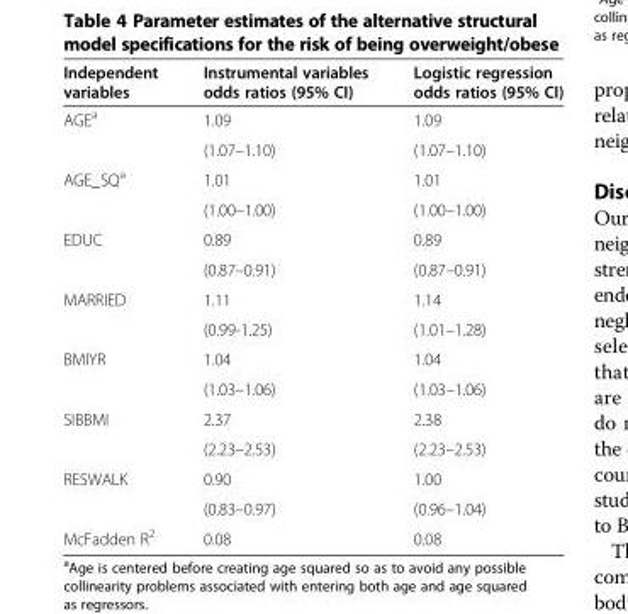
<table><thead><tr><td>Independent variables</td><td>Instrumental variables odds ratios (95% CI)</td><td>Logistic regression odds ratios (95% CI)</td></tr></thead><tbody><tr><td rowspan="2">AGE<sup>a</sup></td><td>1.09</td><td>1.09</td></tr><tr><td>(1.07–1.10)</td><td>(1.07–1.10)</td></tr><tr><td rowspan="2">AGE_SQ<sup>a</sup></td><td>1.01</td><td>1.01</td></tr><tr><td>(1.00–1.00)</td><td>(1.00–1.00)</td></tr><tr><td rowspan="2">EDUC</td><td>0.89</td><td>0.89</td></tr><tr><td>(0.87–0.91)</td><td>(0.87–0.91)</td></tr><tr><td rowspan="2">MARRIED</td><td>1.11</td><td>1.14</td></tr><tr><td>(0.99-1.25)</td><td>(1.01–1.28)</td></tr><tr><td rowspan="2">BMIYR</td><td>1.04</td><td>1.04</td></tr><tr><td>(1.03–1.06)</td><td>(1.03–1.06)</td></tr><tr><td rowspan="2">SIBBMI</td><td>2.37</td><td>2.38</td></tr><tr><td>(2.23–2.53)</td><td>(2.23–2.53)</td></tr><tr><td rowspan="2">RESWALK</td><td>0.90</td><td>1.00</td></tr><tr><td>(0.83–0.97)</td><td>(0.96–1.04)</td></tr><tr><td>McFadden R<sup>2</sup></td><td>0.08</td><td>0.08</td></tr></tbody></table>